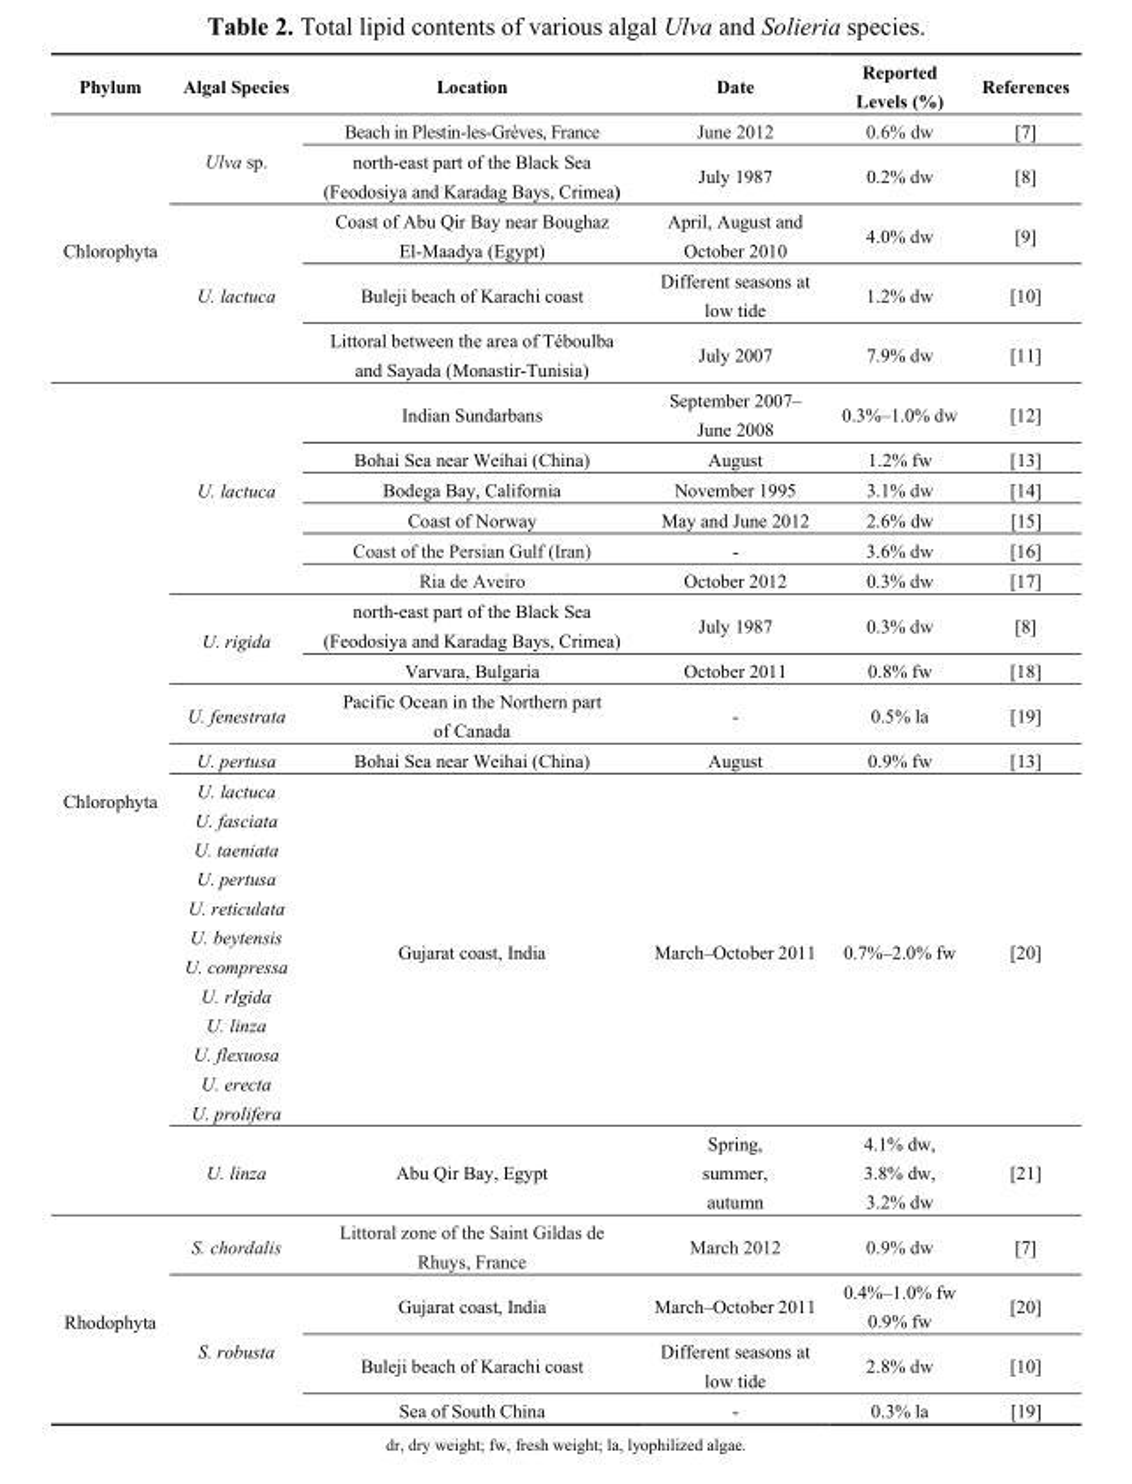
<table><thead><tr><td>Phylum</td><td>Algal Species</td><td>Location</td><td>Date</td><td>Reported Levels (%)</td><td>References</td></tr></thead><tbody><tr><td rowspan="5">Chlorophyta</td><td rowspan="2">Ulva sp.</td><td>Beach in Plestin-les-Grèves, France</td><td>June 2012</td><td>0.6% dw</td><td>[7]</td></tr><tr><td>north-east part of the Black Sea (Feodosiya and Karadag Bays, Crimea)</td><td>July 1987</td><td>0.2% dw</td><td>[8]</td></tr><tr><td rowspan="3">U. lactuca</td><td>Coast of Abu Qir Bay near Boughaz El-Maadya (Egypt)</td><td>April, August and October 2010</td><td>4.0% dw</td><td>[9]</td></tr><tr><td>Buleji beach of Karachi coast</td><td>Different seasons at low tide</td><td>1.2% dw</td><td>[10]</td></tr><tr><td>Littoral between the area of Téboulba and Sayada (Monastir-Tunisia)</td><td>July 2007</td><td>7.9% dw</td><td>[11]</td></tr><tr><td rowspan="12">Chlorophyta</td><td rowspan="6">U. lactuca</td><td>Indian Sundarbans</td><td>September 2007– June 2008</td><td>0.3%–1.0% dw</td><td>[12]</td></tr><tr><td>Bohai Sea near Weihai (China)</td><td>August</td><td>1.2% fw</td><td>[13]</td></tr><tr><td>Bodega Bay, California</td><td>November 1995</td><td>3.1% dw</td><td>[14]</td></tr><tr><td>Coast of Norway</td><td>May and June 2012</td><td>2.6% dw</td><td>[15]</td></tr><tr><td>Coast of the Persian Gulf (Iran)</td><td>-</td><td>3.6% dw</td><td>[16]</td></tr><tr><td>Ria de Aveiro</td><td>October 2012</td><td>0.3% dw</td><td>[17]</td></tr><tr><td rowspan="2">U. rigida</td><td>north-east part of the Black Sea (Feodosiya and Karadag Bays, Crimea)</td><td>July 1987</td><td>0.3% dw</td><td>[8]</td></tr><tr><td>Varvara, Bulgaria</td><td>October 2011</td><td>0.8% fw</td><td>[18]</td></tr><tr><td>U. fenestrata</td><td>Pacific Ocean in the Northern part of Canada</td><td>-</td><td>0.5% la</td><td>[19]</td></tr><tr><td>U. pertusa</td><td>Bohai Sea near Weihai (China)</td><td>August</td><td>0.9% fw</td><td>[13]</td></tr><tr><td>U. lactuca U. fasciata U. taeniata U. pertusa U. reticulata U. beytensis U. compressa U. rIgida U. linza U. flexuosa U. erecta U. prolifera</td><td>Gujarat coast, India</td><td>March–October 2011</td><td>0.7%–2.0% fw</td><td>[20]</td></tr><tr><td>U. linza</td><td>Abu Qir Bay, Egypt</td><td>Spring, summer, autumn</td><td>4.1% dw, 3.8% dw, 3.2% dw</td><td>[21]</td></tr><tr><td rowspan="4">Rhodophyta</td><td>S. chordalis</td><td>Littoral zone of the Saint Gildas de Rhuys, France</td><td>March 2012</td><td>0.9% dw</td><td>[7]</td></tr><tr><td rowspan="3">S. robusta</td><td>Gujarat coast, India</td><td>March–October 2011</td><td>0.4%–1.0% fw 0.9% fw</td><td>[20]</td></tr><tr><td>Buleji beach of Karachi coast</td><td>Different seasons at low tide</td><td>2.8% dw</td><td>[10]</td></tr><tr><td>Sea of South China</td><td>-</td><td>0.3% la</td><td>[19]</td></tr></tbody></table>